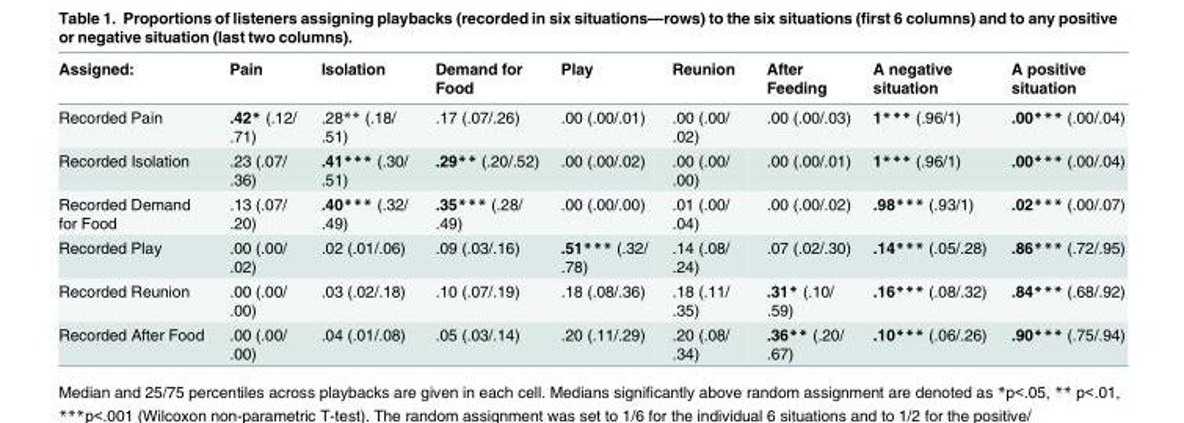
<table><thead><tr><td>Assigned:</td><td>Pain</td><td>Isolation</td><td>Demand for Food</td><td>Play</td><td>Reunion</td><td>After Feeding</td><td>A negative situation</td><td>A positive situation</td></tr></thead><tbody><tr><td>Recorded Pain</td><td>.42* (.12/ .71)</td><td>.28** (.18/ .51)</td><td>.17 (.07/.26)</td><td>.00 (.00/.01)</td><td>.00 (.00/ .02)</td><td>.00 (.00/.03)</td><td>1*** (.96/1)</td><td>.00*** (.00/.04)</td></tr><tr><td>Recorded Isolation</td><td>.23 (.07/ .36)</td><td>.41*** (.30/ .51)</td><td>.29** (.20/.52)</td><td>.00 (.00/.02)</td><td>.00 (.00/ .00)</td><td>.00 (.00/.01)</td><td>1*** (.96/1)</td><td>.00*** (.00/.04)</td></tr><tr><td>Recorded Demand for Food</td><td>.13 (.07/ .20)</td><td>.40*** (.32/ .49)</td><td>.35*** (.28/ .49)</td><td>.00 (.00/.00)</td><td>.01 (.00/ .04)</td><td>.00 (.00/.02)</td><td>.98*** (.93/1)</td><td>.02*** (.00/.07)</td></tr><tr><td>Recorded Play</td><td>.00 (.00/ .02)</td><td>.02 (.01/.06)</td><td>.09 (.03/.16)</td><td>.51*** (.32/ .78)</td><td>.14 (.08/ .24)</td><td>.07 (.02/.30)</td><td>.14*** (.05/.28)</td><td>.86*** (.72/.95)</td></tr><tr><td>Recorded Reunion</td><td>.00 (.00/ .00)</td><td>.03 (.02/.18)</td><td>.10 (.07/.19)</td><td>.18 (.08/.36)</td><td>.18 (.11/ .35)</td><td>.31* (.10/ .59)</td><td>.16*** (.08/.32)</td><td>.84*** (.68/.92)</td></tr><tr><td>Recorded After Food</td><td>.00 (.00/ .00)</td><td>.04 (.01/.08)</td><td>.05 (.03/.14)</td><td>.20 (.11/.29)</td><td>.20 (.08/ .34)</td><td>.36** (.20/ .67)</td><td>.10*** (.06/.26)</td><td>.90*** (.75/.94)</td></tr></tbody></table>